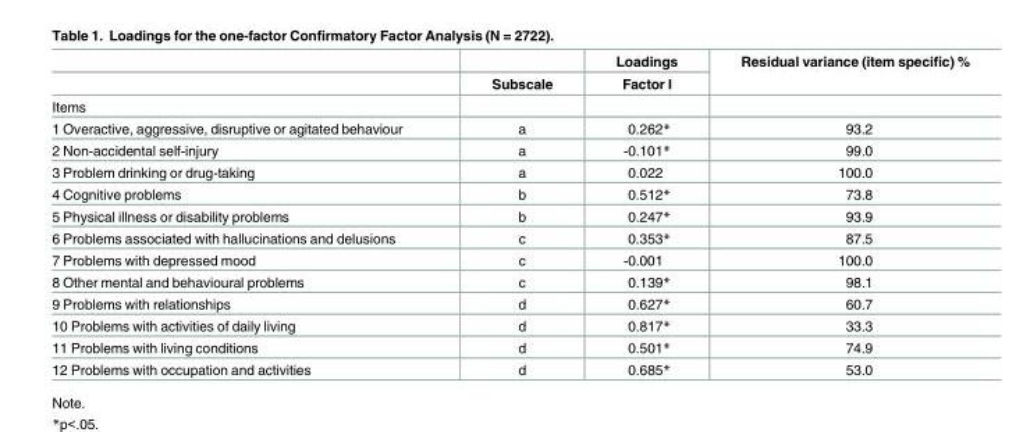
<table><thead><tr><td rowspan="2"></td><td rowspan="2">Subscale</td><td rowspan="2">Loadings Factor I</td><td rowspan="2">Residual variance (item specific) %</td></tr><tr></tr></thead><tbody><tr><td colspan="4">Items</td></tr><tr><td>1 Overactive, aggressive, disruptive or agitated behaviour</td><td>a</td><td>0.262*</td><td>93.2</td></tr><tr><td>2 Non-accidental self-injury</td><td>a</td><td>-0.101*</td><td>99.0</td></tr><tr><td>3 Problem drinking or drug-taking</td><td>a</td><td>0.022</td><td>100.0</td></tr><tr><td>4 Cognitive problems</td><td>b</td><td>0.512*</td><td>73.8</td></tr><tr><td>5 Physical illness or disability problems</td><td>b</td><td>0.247*</td><td>93.9</td></tr><tr><td>6 Problems associated with hallucinations and delusions</td><td>c</td><td>0.353*</td><td>87.5</td></tr><tr><td>7 Problems with depressed mood</td><td>c</td><td>-0.001</td><td>100.0</td></tr><tr><td>8 Other mental and behavioural problems</td><td>c</td><td>0.139*</td><td>98.1</td></tr><tr><td>9 Problems with relationships</td><td>d</td><td>0.627*</td><td>60.7</td></tr><tr><td>10 Problems with activities of daily living</td><td>d</td><td>0.817*</td><td>33.3</td></tr><tr><td>11 Problems with living conditions</td><td>d</td><td>0.501*</td><td>74.9</td></tr><tr><td>12 Problems with occupation and activities</td><td>d</td><td>0.685*</td><td>53.0</td></tr></tbody></table>